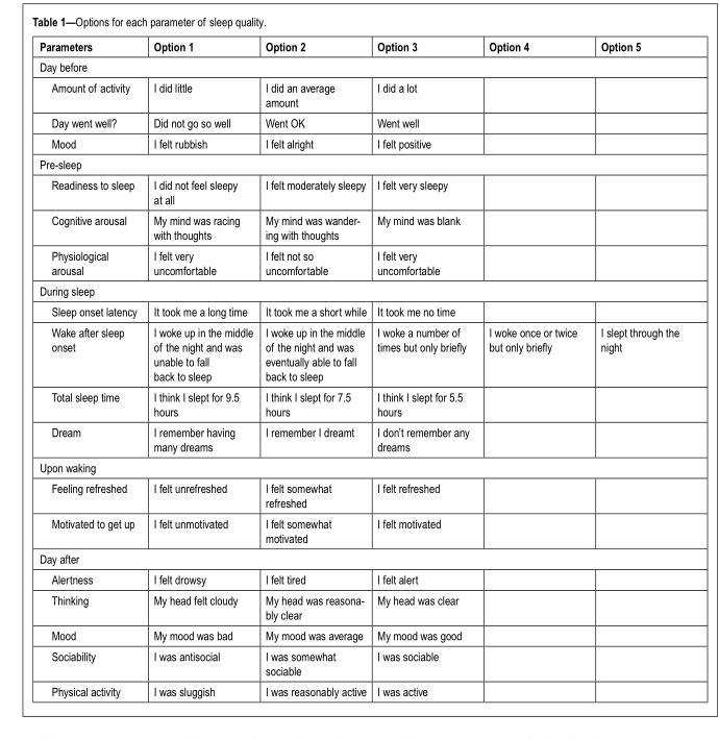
<table><thead><tr><td>Parameters</td><td>Option 1</td><td>Option 2</td><td>Option 3</td><td>Option 4</td><td>Option 5</td></tr></thead><tbody><tr><td colspan="6">Day before</td></tr><tr><td>Amount of activity</td><td>I did little</td><td>I did an average amount</td><td>I did a lot</td><td></td><td></td></tr><tr><td>Day went well?</td><td>Did not go so well</td><td>Went OK</td><td>Went well</td><td></td><td></td></tr><tr><td>Mood</td><td>I felt rubbish</td><td>I felt alright</td><td>I felt positive</td><td></td><td></td></tr><tr><td colspan="6">Pre-sleep</td></tr><tr><td>Readiness to sleep</td><td>I did not feel sleepy at all</td><td>I felt moderately sleepy</td><td>I felt very sleepy</td><td></td><td></td></tr><tr><td>Cognitive arousal</td><td>My mind was racing with thoughts</td><td>My mind was wander- ing with thoughts</td><td>My mind was blank</td><td></td><td></td></tr><tr><td>Physiological arousal</td><td>I felt very uncomfortable</td><td>I felt not so uncomfortable</td><td>I felt very uncomfortable</td><td></td><td></td></tr><tr><td colspan="6">During sleep</td></tr><tr><td>Sleep onset latency</td><td>It took me a long time</td><td>It took me a short while</td><td>It took me no time</td><td></td><td></td></tr><tr><td>Wake after sleep onset</td><td>I woke up in the middle of the night and was unable to fall back to sleep</td><td>I woke up in the middle of the night and was eventually able to fall back to sleep</td><td>I woke a number of times but only briefly</td><td>I woke once or twice but only briefly</td><td>I slept through the night</td></tr><tr><td>Total sleep time</td><td>I think I slept for 9.5 hours</td><td>I think I slept for 7.5 hours</td><td>I think I slept for 5.5 hours</td><td></td><td></td></tr><tr><td>Dream</td><td>I remember having many dreams</td><td>I remember I dreamt</td><td>I don’t remember any dreams</td><td></td><td></td></tr><tr><td colspan="6">Upon waking</td></tr><tr><td>Feeling refreshed</td><td>I felt unrefreshed</td><td>I felt somewhat refreshed</td><td>I felt refreshed</td><td></td><td></td></tr><tr><td>Motivated to get up</td><td>I felt unmotivated</td><td>I felt somewhat motivated</td><td>I felt motivated</td><td></td><td></td></tr><tr><td colspan="6">Day after</td></tr><tr><td>Alertness</td><td>I felt drowsy</td><td>I felt tired</td><td>I felt alert</td><td></td><td></td></tr><tr><td>Thinking</td><td>My head felt cloudy</td><td>My head was reasona- bly clear</td><td>My head was clear</td><td></td><td></td></tr><tr><td>Mood</td><td>My mood was bad</td><td>My mood was average</td><td>My mood was good</td><td></td><td></td></tr><tr><td>Sociability</td><td>I was antisocial</td><td>I was somewhat sociable</td><td>I was sociable</td><td></td><td></td></tr><tr><td>Physical activity</td><td>I was sluggish</td><td>I was reasonably active</td><td>I was active</td><td></td><td></td></tr></tbody></table>